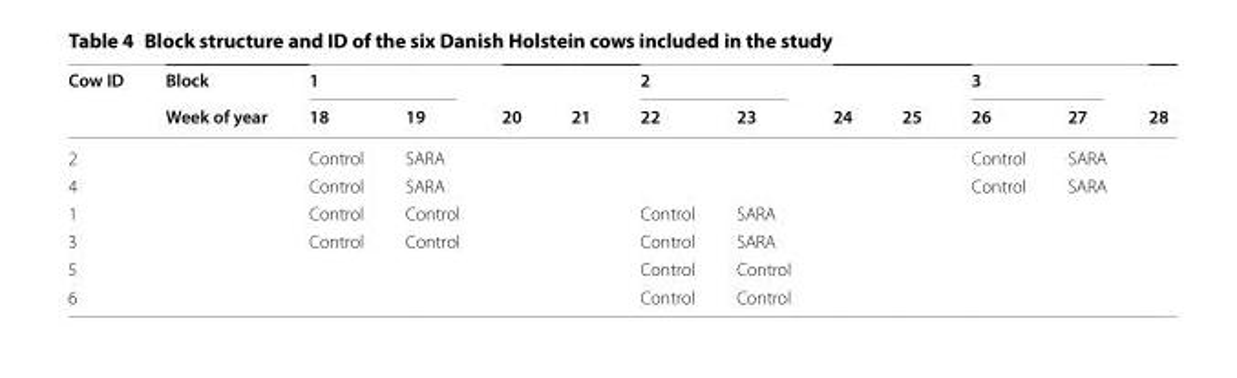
<table><thead><tr><td rowspan="2">Cow ID</td><td rowspan="2">Block Week of year</td><td colspan="2">1</td><td rowspan="2">20</td><td rowspan="2">21</td><td colspan="2">2</td><td rowspan="2">24</td><td rowspan="2">25</td><td colspan="2">3</td><td rowspan="2">28</td></tr><tr><td>18</td><td>19</td><td>22</td><td>23</td><td>26</td><td>27</td></tr></thead><tbody><tr><td>2</td><td></td><td>Control</td><td>SARA</td><td></td><td></td><td></td><td></td><td></td><td></td><td>Control</td><td>SARA</td><td></td></tr><tr><td>4</td><td></td><td>Control</td><td>SARA</td><td></td><td></td><td></td><td></td><td></td><td></td><td>Control</td><td>SARA</td><td></td></tr><tr><td>1</td><td></td><td>Control</td><td>Control</td><td></td><td></td><td>Control</td><td>SARA</td><td></td><td></td><td></td><td></td><td></td></tr><tr><td>3</td><td></td><td>Control</td><td>Control</td><td></td><td></td><td>Control</td><td>SARA</td><td></td><td></td><td></td><td></td><td></td></tr><tr><td>5</td><td></td><td></td><td></td><td></td><td></td><td>Control</td><td>Control</td><td></td><td></td><td></td><td></td><td></td></tr><tr><td>6</td><td></td><td></td><td></td><td></td><td></td><td>Control</td><td>Control</td><td></td><td></td><td></td><td></td><td></td></tr></tbody></table>